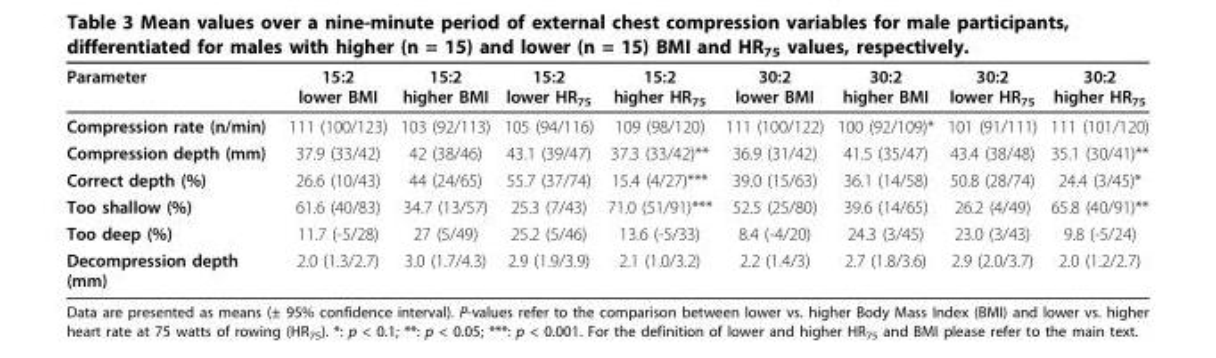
<table><thead><tr><td>Parameter</td><td>15:2 lower BMI</td><td>15:2 higher BMI</td><td>15:2 lower HR<sub>75</sub></td><td>15:2 higher HR<sub>75</sub></td><td>30:2 lower BMI</td><td>30:2 higher BMI</td><td>30:2 lower HR<sub>75</sub></td><td>30:2 higher HR<sub>75</sub></td></tr></thead><tbody><tr><td>Compression rate (n/min)</td><td>111 (100/123)</td><td>103 (92/113)</td><td>105 (94/116)</td><td>109 (98/120)</td><td>111 (100/122)</td><td>100 (92/109)*</td><td>101 (91/111)</td><td>111 (101/120)</td></tr><tr><td>Compression depth (mm)</td><td>37.9 (33/42)</td><td>42 (38/46)</td><td>43.1 (39/47)</td><td>37.3 (33/42)**</td><td>36.9 (31/42)</td><td>41.5 (35/47)</td><td>43.4 (38/48)</td><td>35.1 (30/41)**</td></tr><tr><td>Correct depth (%)</td><td>26.6 (10/43)</td><td>44 (24/65)</td><td>55.7 (37/74)</td><td>15.4 (4/27)***</td><td>39.0 (15/63)</td><td>36.1 (14/58)</td><td>50.8 (28/74)</td><td>24.4 (3/45)*</td></tr><tr><td>Too shallow (%)</td><td>61.6 (40/83)</td><td>34.7 (13/57)</td><td>25.3 (7/43)</td><td>71.0 (51/91)***</td><td>52.5 (25/80)</td><td>39.6 (14/65)</td><td>26.2 (4/49)</td><td>65.8 (40/91)**</td></tr><tr><td>Too deep (%)</td><td>11.7 (-5/28)</td><td>27 (5/49)</td><td>25.2 (5/46)</td><td>13.6 (-5/33)</td><td>8.4 (-4/20)</td><td>24.3 (3/45)</td><td>23.0 (3/43)</td><td>9.8 (-5/24)</td></tr><tr><td>Decompression depth (mm)</td><td>2.0 (1.3/2.7)</td><td>3.0 (1.7/4.3)</td><td>2.9 (1.9/3.9)</td><td>2.1 (1.0/3.2)</td><td>2.2 (1.4/3)</td><td>2.7 (1.8/3.6)</td><td>2.9 (2.0/3.7)</td><td>2.0 (1.2/2.7)</td></tr></tbody></table>